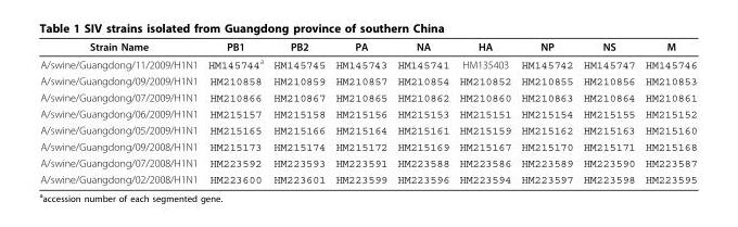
<table><thead><tr><td>Strain Name</td><td>PB1</td><td>PB2</td><td>PA</td><td>NA</td><td>HA</td><td>NP</td><td>NS</td><td>M</td></tr></thead><tbody><tr><td>A/swine/Guangdong/11/2009/H1N1</td><td>HM145744<sup>a</sup></td><td>HM145745</td><td>HM145743</td><td>HM145741</td><td>HM135403</td><td>HM145742</td><td>HM145747</td><td>HM145746</td></tr><tr><td>A/swine/Guangdong/09/2009/H1N1</td><td>HM210858</td><td>HM210859</td><td>HM210857</td><td>HM210854</td><td>HM210852</td><td>HM210855</td><td>HM210856</td><td>HM210853</td></tr><tr><td>A/swine/Guangdong/07/2009/H1N1</td><td>HM210866</td><td>HM210867</td><td>HM210865</td><td>HM210862</td><td>HM210860</td><td>HM210863</td><td>HM210864</td><td>HM210861</td></tr><tr><td>A/swine/Guangdong/06/2009/H1N1</td><td>HM215157</td><td>HM215158</td><td>HM215156</td><td>HM215153</td><td>HM215151</td><td>HM215154</td><td>HM215155</td><td>HM215152</td></tr><tr><td>A/swine/Guangdong/05/2009/H1N1</td><td>HM215165</td><td>HM215166</td><td>HM215164</td><td>HM215161</td><td>HM215159</td><td>HM215162</td><td>HM215163</td><td>HM215160</td></tr><tr><td>A/swine/Guangdong/09/2008/H1N1</td><td>HM215173</td><td>HM215174</td><td>HM215172</td><td>HM215169</td><td>HM215167</td><td>HM215170</td><td>HM215171</td><td>HM215168</td></tr><tr><td>A/swine/Guangdong/07/2008/H1N1</td><td>HM223592</td><td>HM223593</td><td>HM223591</td><td>HM223588</td><td>HM223586</td><td>HM223589</td><td>HM223590</td><td>HM223587</td></tr><tr><td>A/swine/Guangdong/02/2008/H1N1</td><td>HM223600</td><td>HM223601</td><td>HM223599</td><td>HM223596</td><td>HM223594</td><td>HM223597</td><td>HM223598</td><td>HM223595</td></tr></tbody></table>